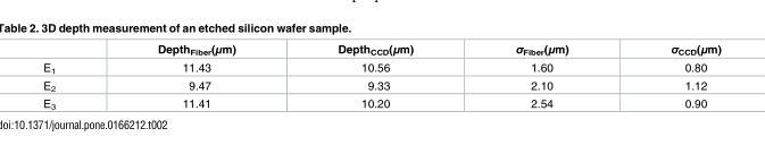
<table><thead><tr><td></td><td>Depth<sub>Fiber</sub>(μm)</td><td>Depth<sub>CCD</sub>(μm)</td><td>σ<sub>Fiber</sub>(μm)</td><td>σ<sub>CCD</sub>(μm)</td></tr></thead><tbody><tr><td>E<sub>1</sub></td><td>11.43</td><td>10.56</td><td>1.60</td><td>0.80</td></tr><tr><td>E<sub>2</sub></td><td>9.47</td><td>9.33</td><td>2.10</td><td>1.12</td></tr><tr><td>E<sub>3</sub></td><td>11.41</td><td>10.20</td><td>2.54</td><td>0.90</td></tr></tbody></table>